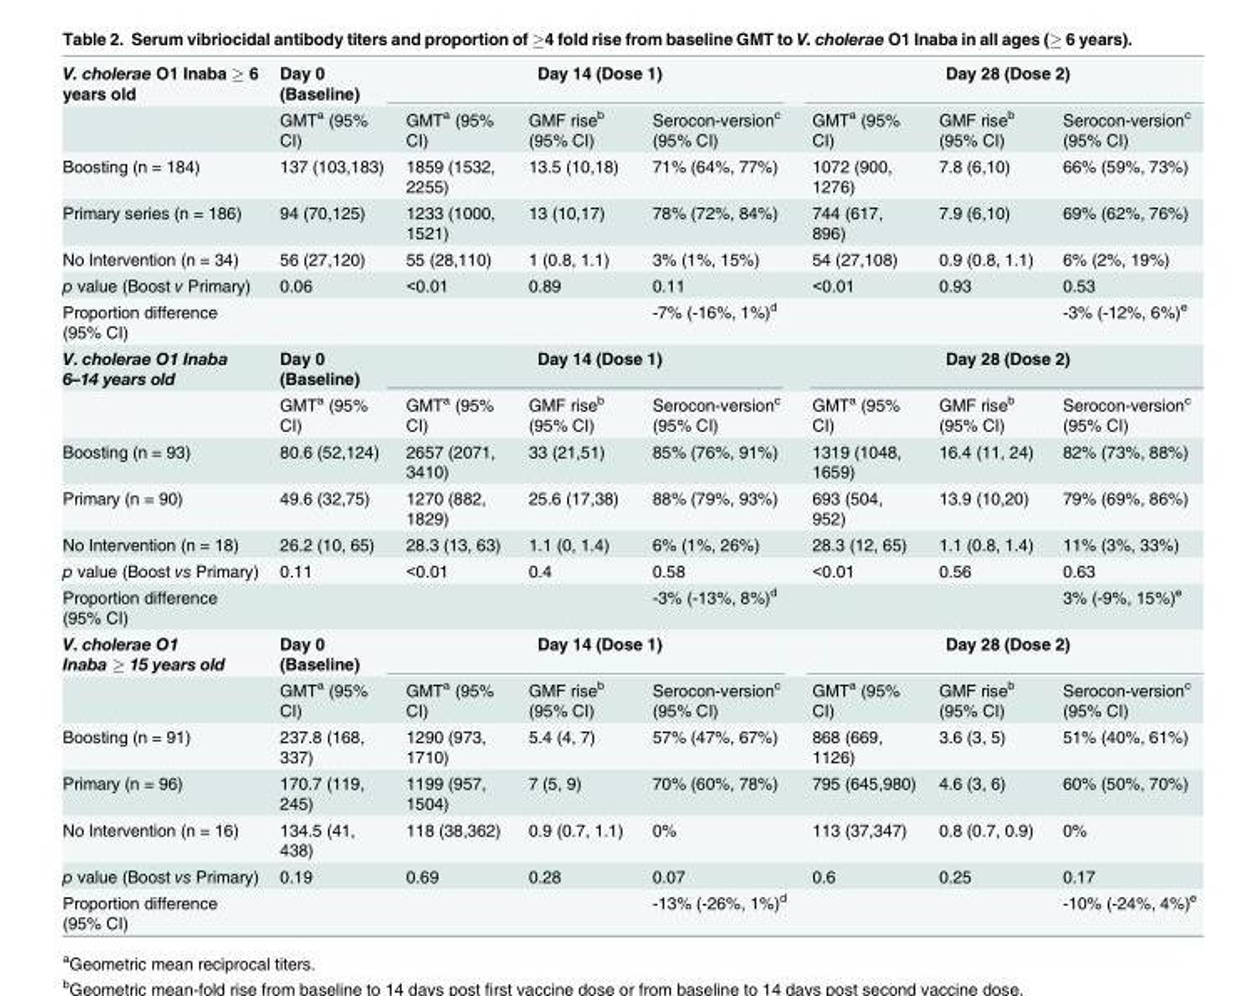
<table><tbody><tr><td rowspan="2">V. cholerae O1 Inaba ≥ 6 years old</td><td>Day 0 (Baseline)</td><td colspan="3">Day 14 (Dose 1)</td><td colspan="3">Day 28 (Dose 2)</td></tr><tr><td>GMT<sup>a</sup> (95% CI)</td><td>GMT<sup>a</sup> (95% CI)</td><td>GMF rise<sup>b</sup> (95% CI)</td><td>Serocon-version<sup>c</sup> (95% CI)</td><td>GMT<sup>a</sup> (95% CI)</td><td>GMF rise<sup>b</sup> (95% CI)</td><td>Serocon-version<sup>c</sup> (95% CI)</td></tr><tr><td>Boosting (n = 184)</td><td>137 (103,183)</td><td>1859 (1532, 2255)</td><td>13.5 (10,18)</td><td>71% (64%, 77%)</td><td>1072 (900, 1276)</td><td>7.8 (6,10)</td><td>66% (59%, 73%)</td></tr><tr><td>Primary series (n = 186)</td><td>94 (70,125)</td><td>1233 (1000, 1521)</td><td>13 (10,17)</td><td>78% (72%, 84%)</td><td>744 (617, 896)</td><td>7.9 (6,10)</td><td>69% (62%, 76%)</td></tr><tr><td>No Intervention (n = 34)</td><td>56 (27,120)</td><td>55 (28,110)</td><td>1 (0.8, 1.1)</td><td>3% (1%, 15%)</td><td>54 (27,108)</td><td>0.9 (0.8, 1.1)</td><td>6% (2%, 19%)</td></tr><tr><td>p value (Boost v Primary)</td><td>0.06</td><td>&lt;0.01</td><td>0.89</td><td>0.11</td><td>&lt;0.01</td><td>0.93</td><td>0.53</td></tr><tr><td>Proportion difference (95% CI)</td><td></td><td></td><td></td><td>-7% (-16%, 1%)<sup>d</sup></td><td></td><td></td><td>-3% (-12%, 6%)<sup>e</sup></td></tr><tr><td rowspan="2">V. cholerae O1 Inaba 6–14 years old</td><td>Day 0 (Baseline)</td><td colspan="3">Day 14 (Dose 1)</td><td colspan="3">Day 28 (Dose 2)</td></tr><tr><td>GMT<sup>a</sup> (95% CI)</td><td>GMT<sup>a</sup> (95% CI)</td><td>GMF rise<sup>b</sup> (95% CI)</td><td>Serocon-version<sup>c</sup> (95% CI)</td><td>GMT<sup>a</sup> (95% CI)</td><td>GMF rise<sup>b</sup> (95% CI)</td><td>Serocon-version<sup>c</sup> (95% CI)</td></tr><tr><td>Boosting (n = 93)</td><td>80.6 (52,124)</td><td>2657 (2071, 3410)</td><td>33 (21,51)</td><td>85% (76%, 91%)</td><td>1319 (1048, 1659)</td><td>16.4 (11, 24)</td><td>82% (73%, 88%)</td></tr><tr><td>Primary (n = 90)</td><td>49.6 (32,75)</td><td>1270 (882, 1829)</td><td>25.6 (17,38)</td><td>88% (79%, 93%)</td><td>693 (504, 952)</td><td>13.9 (10,20)</td><td>79% (69%, 86%)</td></tr><tr><td>No Intervention (n = 18)</td><td>26.2 (10, 65)</td><td>28.3 (13, 63)</td><td>1.1 (0, 1.4)</td><td>6% (1%, 26%)</td><td>28.3 (12, 65)</td><td>1.1 (0.8, 1.4)</td><td>11% (3%, 33%)</td></tr><tr><td>p value (Boost vs Primary)</td><td>0.11</td><td>&lt;0.01</td><td>0.4</td><td>0.58</td><td>&lt;0.01</td><td>0.56</td><td>0.63</td></tr><tr><td>Proportion difference (95% CI)</td><td></td><td></td><td></td><td>-3% (-13%, 8%)<sup>d</sup></td><td></td><td></td><td>3% (-9%, 15%)<sup>e</sup></td></tr><tr><td rowspan="2">V. cholerae O1 Inaba ≥ 15 years old</td><td>Day 0 (Baseline)</td><td colspan="3">Day 14 (Dose 1)</td><td colspan="3">Day 28 (Dose 2)</td></tr><tr><td>GMT<sup>a</sup> (95% CI)</td><td>GMT<sup>a</sup> (95% CI)</td><td>GMF rise<sup>b</sup> (95% CI)</td><td>Serocon-version<sup>c</sup> (95% CI)</td><td>GMT<sup>a</sup> (95% CI)</td><td>GMF rise<sup>b</sup> (95% CI)</td><td>Serocon-version<sup>c</sup> (95% CI)</td></tr><tr><td>Boosting (n = 91)</td><td>237.8 (168, 337)</td><td>1290 (973, 1710)</td><td>5.4 (4, 7)</td><td>57% (47%, 67%)</td><td>868 (669, 1126)</td><td>3.6 (3, 5)</td><td>51% (40%, 61%)</td></tr><tr><td>Primary (n = 96)</td><td>170.7 (119, 245)</td><td>1199 (957, 1504)</td><td>7 (5, 9)</td><td>70% (60%, 78%)</td><td>795 (645,980)</td><td>4.6 (3, 6)</td><td>60% (50%, 70%)</td></tr><tr><td>No Intervention (n = 16)</td><td>134.5 (41, 438)</td><td>118 (38,362)</td><td>0.9 (0.7, 1.1)</td><td>0%</td><td>113 (37,347)</td><td>0.8 (0.7, 0.9)</td><td>0%</td></tr><tr><td>p value (Boost vs Primary)</td><td>0.19</td><td>0.69</td><td>0.28</td><td>0.07</td><td>0.6</td><td>0.25</td><td>0.17</td></tr><tr><td>Proportion difference (95% CI)</td><td></td><td></td><td></td><td>-13% (-26%, 1%)<sup>d</sup></td><td></td><td></td><td>-10% (-24%, 4%)<sup>e</sup></td></tr></tbody></table>